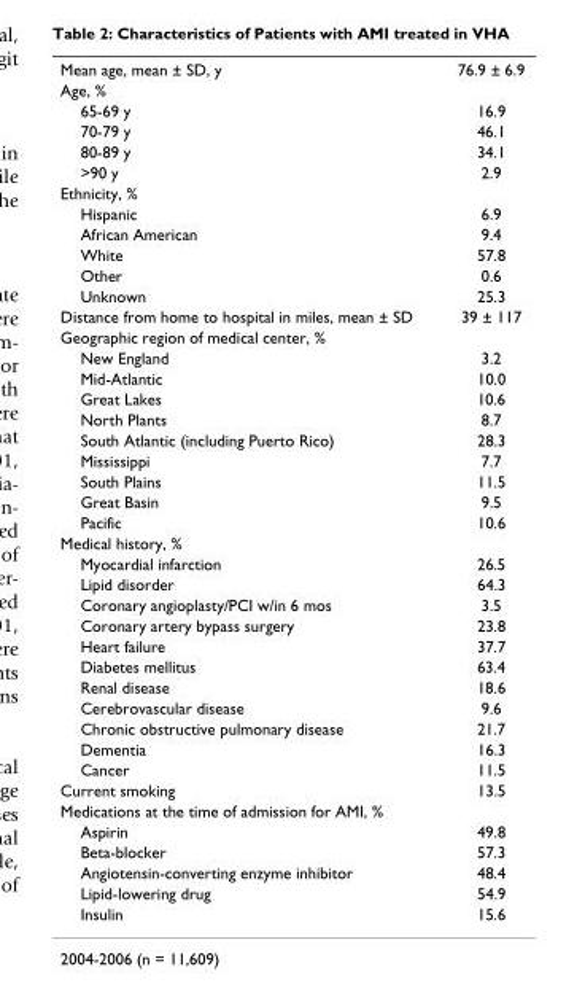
<table><tbody><tr><td>Mean age, mean ± SD, y</td><td>76.9 ± 6.9</td></tr><tr><td colspan="2">Age, %</td></tr><tr><td>65-69 y</td><td>16.9</td></tr><tr><td>70-79 y</td><td>46.1</td></tr><tr><td>80-89 y</td><td>34.1</td></tr><tr><td>&gt;90 y</td><td>2.9</td></tr><tr><td colspan="2">Ethnicity, %</td></tr><tr><td>Hispanic</td><td>6.9</td></tr><tr><td>African American</td><td>9.4</td></tr><tr><td>White</td><td>57.8</td></tr><tr><td>Other</td><td>0.6</td></tr><tr><td>Unknown</td><td>25.3</td></tr><tr><td>Distance from home to hospital in miles, mean ± SD</td><td>39 ± 117</td></tr><tr><td colspan="2">Geographic region of medical center, %</td></tr><tr><td>New England</td><td>3.2</td></tr><tr><td>Mid-Atlantic</td><td>10.0</td></tr><tr><td>Great Lakes</td><td>10.6</td></tr><tr><td>North Plants</td><td>8.7</td></tr><tr><td>South Atlantic (including Puerto Rico)</td><td>28.3</td></tr><tr><td>Mississippi</td><td>7.7</td></tr><tr><td>South Plains</td><td>11.5</td></tr><tr><td>Great Basin</td><td>9.5</td></tr><tr><td>Pacific</td><td>10.6</td></tr><tr><td colspan="2">Medical history, %</td></tr><tr><td>Myocardial infarction</td><td>26.5</td></tr><tr><td>Lipid disorder</td><td>64.3</td></tr><tr><td>Coronary angioplasty/PCI w/in 6 mos</td><td>3.5</td></tr><tr><td>Coronary artery bypass surgery</td><td>23.8</td></tr><tr><td>Heart failure</td><td>37.7</td></tr><tr><td>Diabetes mellitus</td><td>63.4</td></tr><tr><td>Renal disease</td><td>18.6</td></tr><tr><td>Cerebrovascular disease</td><td>9.6</td></tr><tr><td>Chronic obstructive pulmonary disease</td><td>21.7</td></tr><tr><td>Dementia</td><td>16.3</td></tr><tr><td>Cancer</td><td>11.5</td></tr><tr><td>Current smoking</td><td>13.5</td></tr><tr><td colspan="2">Medications at the time of admission for AMI, %</td></tr><tr><td>Aspirin</td><td>49.8</td></tr><tr><td>Beta-blocker</td><td>57.3</td></tr><tr><td>Angiotensin-converting enzyme inhibitor</td><td>48.4</td></tr><tr><td>Lipid-lowering drug</td><td>54.9</td></tr><tr><td>Insulin</td><td>15.6</td></tr></tbody></table>